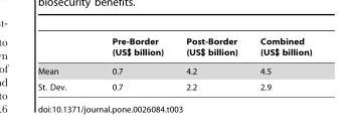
<table><thead><tr><td></td><td>Pre-Border (US$ billion)</td><td>Post-Border (US$ billion)</td><td>Combined (US$ billion)</td></tr></thead><tbody><tr><td>Mean</td><td>0.7</td><td>4.2</td><td>4.5</td></tr><tr><td>St. Dev.</td><td>0.7</td><td>2.2</td><td>2.9</td></tr></tbody></table>